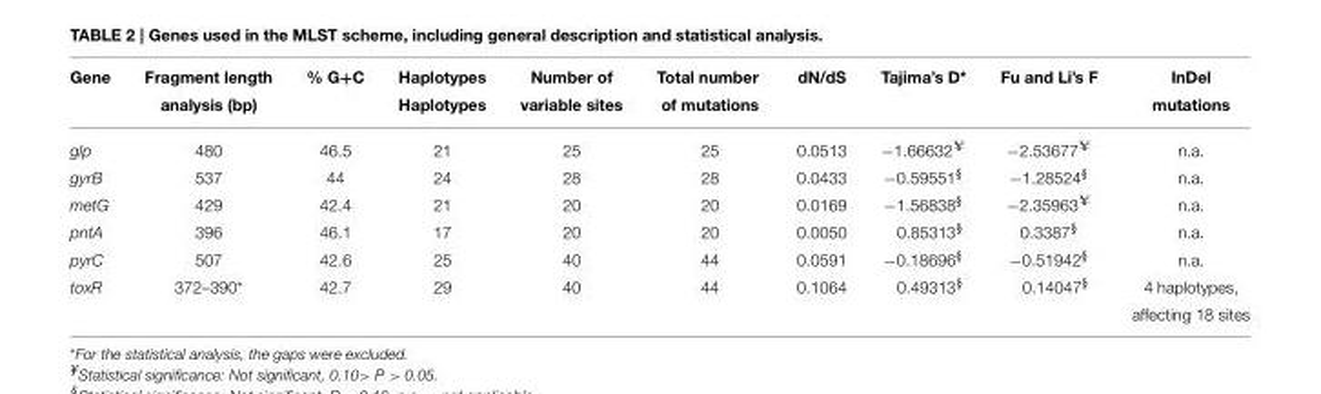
<table><thead><tr><td rowspan="2">Gene</td><td rowspan="2">Fragment length analysis (bp)</td><td rowspan="2">% G+C</td><td rowspan="2">Haplotypes Haplotypes</td><td rowspan="2">Number of variable sites</td><td rowspan="2">Total number of mutations</td><td rowspan="2">dN/dS</td><td rowspan="2">Tajima’s D*</td><td rowspan="2">Fu and Li’s F</td><td rowspan="2">InDel mutations</td></tr><tr></tr></thead><tbody><tr><td>glp</td><td>480</td><td>46.5</td><td>21</td><td>25</td><td>25</td><td>0.0513</td><td>−1.66632<sup>¥</sup></td><td>−2.53677<sup>¥</sup></td><td>n.a.</td></tr><tr><td>gyrB</td><td>537</td><td>44</td><td>24</td><td>28</td><td>28</td><td>0.0433</td><td>−0.59551<sup>§</sup></td><td>−1.28524<sup>§</sup></td><td>n.a.</td></tr><tr><td>metG</td><td>429</td><td>42.4</td><td>21</td><td>20</td><td>20</td><td>0.0169</td><td>−1.56838<sup>§</sup></td><td>−2.35963<sup>¥</sup></td><td>n.a.</td></tr><tr><td>pntA</td><td>396</td><td>46.1</td><td>17</td><td>20</td><td>20</td><td>0.0050</td><td>0.85313<sup>§</sup></td><td>0.3387<sup>§</sup></td><td>n.a.</td></tr><tr><td>pyrC</td><td>507</td><td>42.6</td><td>25</td><td>40</td><td>44</td><td>0.0591</td><td>−0.18696<sup>§</sup></td><td>−0.51942<sup>§</sup></td><td>n.a.</td></tr><tr><td rowspan="2">toxR</td><td>372–390*</td><td>42.7</td><td>29</td><td>40</td><td>44</td><td>0.1064</td><td>0.49313<sup>§</sup></td><td>0.14047<sup>§</sup></td><td>4 haplotypes,</td></tr><tr><td></td><td></td><td></td><td></td><td></td><td></td><td></td><td></td><td>affecting 18 sites</td></tr></tbody></table>